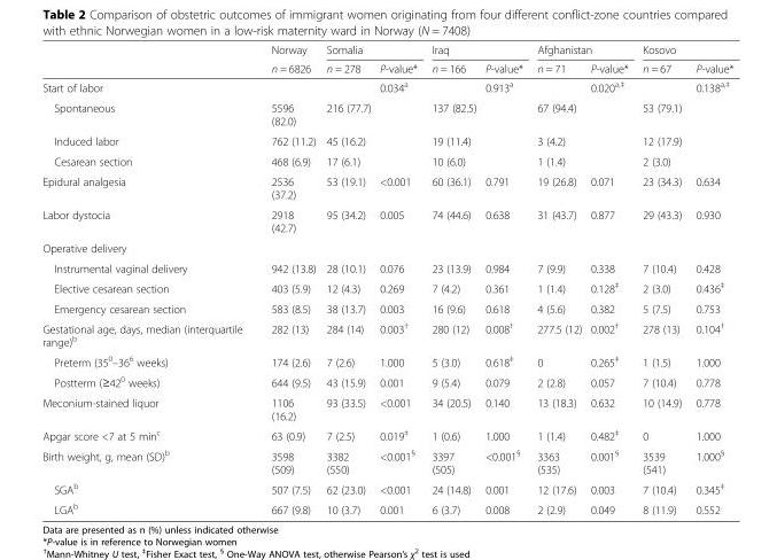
<table><thead><tr><td rowspan="2"></td><td rowspan="2">Norway n = 6826</td><td colspan="2">Somalia</td><td colspan="2">Iraq</td><td colspan="2">Afghanistan</td><td colspan="2">Kosovo</td></tr><tr><td>n = 278</td><td>P-value*</td><td>n = 166</td><td>P-value*</td><td>n = 71</td><td>P-value*</td><td>n = 67</td><td>P-value*</td></tr></thead><tbody><tr><td>Start of labor</td><td></td><td></td><td>0.034<sup>a</sup></td><td></td><td>0.913<sup>a</sup></td><td></td><td>0.020<sup>a,‡</sup></td><td></td><td>0.138<sup>a,‡</sup></td></tr><tr><td>Spontaneous</td><td>5596 (82.0)</td><td>216 (77.7)</td><td></td><td>137 (82.5)</td><td></td><td>67 (94.4)</td><td></td><td>53 (79.1)</td><td></td></tr><tr><td>Induced labor</td><td>762 (11.2)</td><td>45 (16.2)</td><td></td><td>19 (11.4)</td><td></td><td>3 (4.2)</td><td></td><td>12 (17.9)</td><td></td></tr><tr><td>Cesarean section</td><td>468 (6.9)</td><td>17 (6.1)</td><td></td><td>10 (6.0)</td><td></td><td>1 (1.4)</td><td></td><td>2 (3.0)</td><td></td></tr><tr><td>Epidural analgesia</td><td>2536 (37.2)</td><td>53 (19.1)</td><td>&lt;0.001</td><td>60 (36.1)</td><td>0.791</td><td>19 (26.8)</td><td>0.071</td><td>23 (34.3)</td><td>0.634</td></tr><tr><td>Labor dystocia</td><td>2918 (42.7)</td><td>95 (34.2)</td><td>0.005</td><td>74 (44.6)</td><td>0.638</td><td>31 (43.7)</td><td>0.877</td><td>29 (43.3)</td><td>0.930</td></tr><tr><td colspan="10">Operative delivery</td></tr><tr><td>Instrumental vaginal delivery</td><td>942 (13.8)</td><td>28 (10.1)</td><td>0.076</td><td>23 (13.9)</td><td>0.984</td><td>7 (9.9)</td><td>0.338</td><td>7 (10.4)</td><td>0.428</td></tr><tr><td>Elective cesarean section</td><td>403 (5.9)</td><td>12 (4.3)</td><td>0.269</td><td>7 (4.2)</td><td>0.361</td><td>1 (1.4)</td><td>0.128<sup>‡</sup></td><td>2 (3.0)</td><td>0.436<sup>‡</sup></td></tr><tr><td>Emergency cesarean section</td><td>583 (8.5)</td><td>38 (13.7)</td><td>0.003</td><td>16 (9.6)</td><td>0.618</td><td>4 (5.6)</td><td>0.382</td><td>5 (7.5)</td><td>0.753</td></tr><tr><td>Gestational age, days, median (interquartile range)<sup>b</sup></td><td>282 (13)</td><td>284 (14)</td><td>0.003<sup>†</sup></td><td>280 (12)</td><td>0.008<sup>†</sup></td><td>277.5 (12)</td><td>0.002<sup>†</sup></td><td>278 (13)</td><td>0.104<sup>†</sup></td></tr><tr><td>Preterm (35<sup>0</sup>–36<sup>6</sup> weeks)</td><td>174 (2.6)</td><td>7 (2.6)</td><td>1.000</td><td>5 (3.0)</td><td>0.618<sup>‡</sup></td><td>0</td><td>0.265<sup>‡</sup></td><td>1 (1.5)</td><td>1.000</td></tr><tr><td>Postterm (≥42<sup>0</sup> weeks)</td><td>644 (9.5)</td><td>43 (15.9)</td><td>0.001</td><td>9 (5.4)</td><td>0.079</td><td>2 (2.8)</td><td>0.057</td><td>7 (10.4)</td><td>0.778</td></tr><tr><td>Meconium-stained liquor</td><td>1106 (16.2)</td><td>93 (33.5)</td><td>&lt;0.001</td><td>34 (20.5)</td><td>0.140</td><td>13 (18.3)</td><td>0.632</td><td>10 (14.9)</td><td>0.778</td></tr><tr><td>Apgar score &lt;7 at 5 min<sup>c</sup></td><td>63 (0.9)</td><td>7 (2.5)</td><td>0.019<sup>‡</sup></td><td>1 (0.6)</td><td>1.000</td><td>1 (1.4)</td><td>0.482<sup>‡</sup></td><td>0</td><td>1.000</td></tr><tr><td>Birth weight, g, mean (SD)<sup>b</sup></td><td>3598 (509)</td><td>3382 (550)</td><td>&lt;0.001<sup>§</sup></td><td>3397 (505)</td><td>&lt;0.001<sup>§</sup></td><td>3363 (535)</td><td>0.001<sup>§</sup></td><td>3539 (541)</td><td>1.000<sup>§</sup></td></tr><tr><td>SGA<sup>b</sup></td><td>507 (7.5)</td><td>62 (23.0)</td><td>&lt;0.001</td><td>24 (14.8)</td><td>0.001</td><td>12 (17.6)</td><td>0.003</td><td>7 (10.4)</td><td>0.345<sup>‡</sup></td></tr><tr><td>LGA<sup>b</sup></td><td>667 (9.8)</td><td>10 (3.7)</td><td>0.001</td><td>6 (3.7)</td><td>0.008</td><td>2 (2.9)</td><td>0.049</td><td>8 (11.9)</td><td>0.552</td></tr></tbody></table>